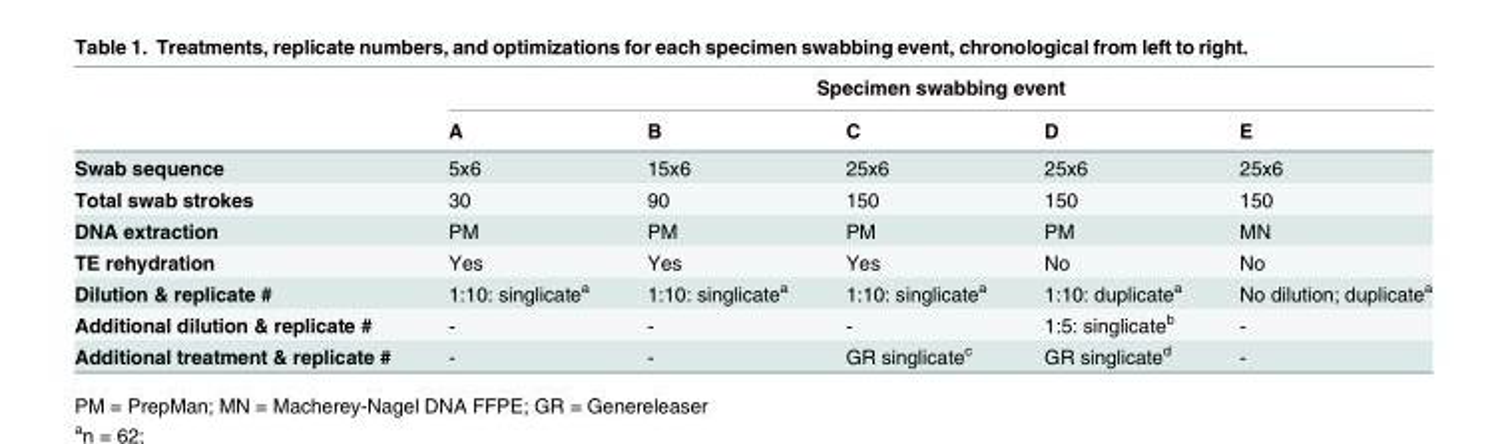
<table><thead><tr><td rowspan="2"></td><td colspan="5">Specimen swabbing event</td></tr><tr><td>A</td><td>B</td><td>C</td><td>D</td><td>E</td></tr></thead><tbody><tr><td>Swab sequence</td><td>5x6</td><td>15x6</td><td>25x6</td><td>25x6</td><td>25x6</td></tr><tr><td>Total swab strokes</td><td>30</td><td>90</td><td>150</td><td>150</td><td>150</td></tr><tr><td>DNA extraction</td><td>PM</td><td>PM</td><td>PM</td><td>PM</td><td>MN</td></tr><tr><td>TE rehydration</td><td>Yes</td><td>Yes</td><td>Yes</td><td>No</td><td>No</td></tr><tr><td>Dilution &amp; replicate #</td><td>1:10: singlicate<sup>a</sup></td><td>1:10: singlicate<sup>a</sup></td><td>1:10: singlicate<sup>a</sup></td><td>1:10: duplicate<sup>a</sup></td><td>No dilution; duplicate<sup>a</sup></td></tr><tr><td>Additional dilution &amp; replicate #</td><td>-</td><td>-</td><td>-</td><td>1:5: singlicate<sup>b</sup></td><td>-</td></tr><tr><td>Additional treatment &amp; replicate #</td><td>-</td><td>-</td><td>GR singlicate<sup>c</sup></td><td>GR singlicate<sup>d</sup></td><td>-</td></tr></tbody></table>